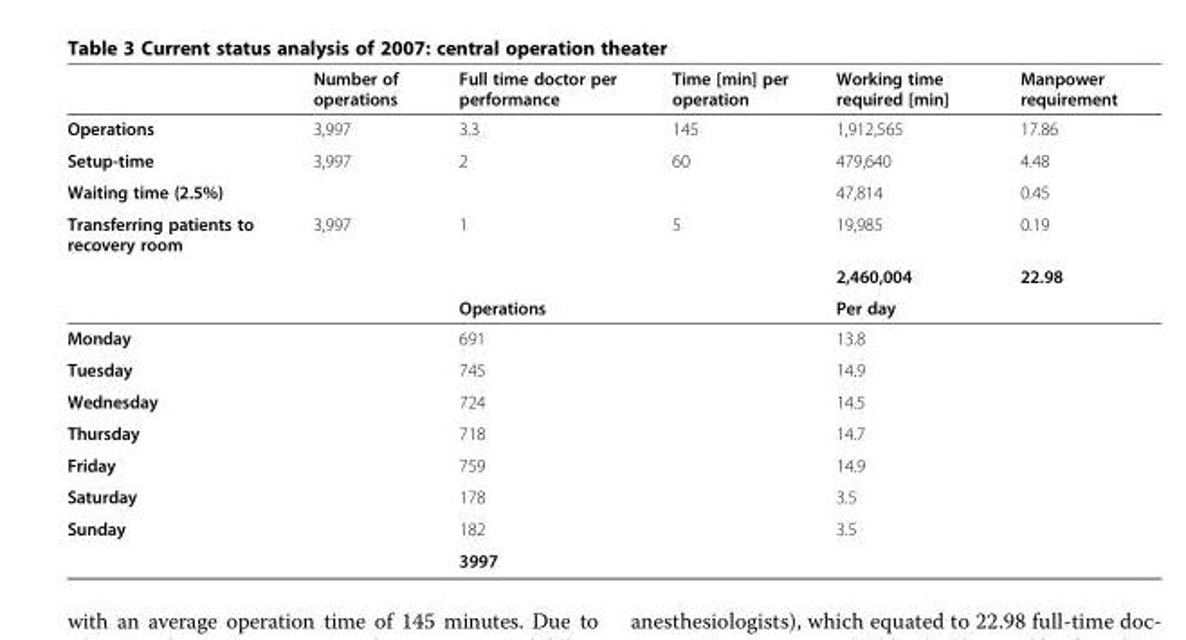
<table><thead><tr><td></td><td>Number of operations</td><td>Full time doctor per performance</td><td>Time [min] per operation</td><td>Working time required [min]</td><td>Manpower requirement</td></tr></thead><tbody><tr><td>Operations</td><td>3,997</td><td>3.3</td><td>145</td><td>1,912,565</td><td>17.86</td></tr><tr><td>Setup-time</td><td>3,997</td><td>2</td><td>60</td><td>479,640</td><td>4.48</td></tr><tr><td>Waiting time (2.5%)</td><td></td><td></td><td></td><td>47,814</td><td>0.45</td></tr><tr><td rowspan="2">Transferring patients to recovery room</td><td>3,997</td><td>1</td><td>5</td><td>19,985</td><td>0.19</td></tr><tr><td></td><td></td><td></td><td>2,460,004</td><td>22.98</td></tr><tr><td colspan="2"></td><td colspan="2">Operations</td><td colspan="2">Per day</td></tr><tr><td colspan="2">Monday</td><td colspan="2">691</td><td colspan="2">13.8</td></tr><tr><td colspan="2">Tuesday</td><td colspan="2">745</td><td colspan="2">14.9</td></tr><tr><td colspan="2">Wednesday</td><td colspan="2">724</td><td colspan="2">14.5</td></tr><tr><td colspan="2">Thursday</td><td colspan="2">718</td><td colspan="2">14.7</td></tr><tr><td colspan="2">Friday</td><td colspan="2">759</td><td colspan="2">14.9</td></tr><tr><td colspan="2">Saturday</td><td colspan="2">178</td><td colspan="2">3.5</td></tr><tr><td rowspan="2" colspan="2">Sunday</td><td colspan="2">182</td><td colspan="2">3.5</td></tr><tr><td colspan="2">3997</td><td colspan="2"></td></tr></tbody></table>